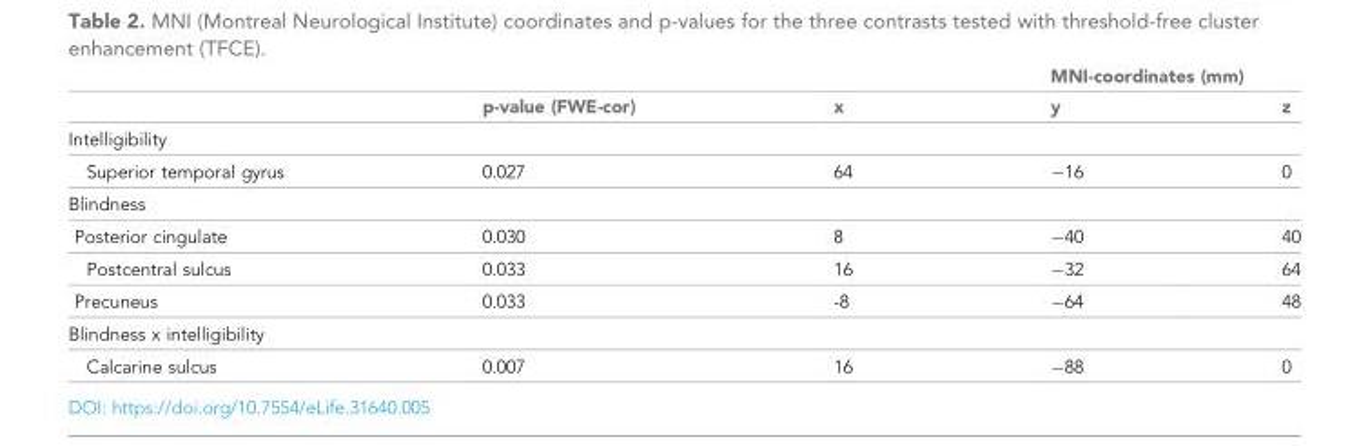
<table><thead><tr><td rowspan="2"></td><td rowspan="2">p-value (FWE-cor)</td><td rowspan="2">x</td><td colspan="2">MNI-coordinates (mm)</td></tr><tr><td>y</td><td>z</td></tr></thead><tbody><tr><td colspan="5">Intelligibility</td></tr><tr><td>Superior temporal gyrus</td><td>0.027</td><td>64</td><td>−16</td><td>0</td></tr><tr><td colspan="5">Blindness</td></tr><tr><td>Posterior cingulate</td><td>0.030</td><td>8</td><td>−40</td><td>40</td></tr><tr><td>Postcentral sulcus</td><td>0.033</td><td>16</td><td>−32</td><td>64</td></tr><tr><td>Precuneus</td><td>0.033</td><td>-8</td><td>−64</td><td>48</td></tr><tr><td colspan="5">Blindness x intelligibility</td></tr><tr><td>Calcarine sulcus</td><td>0.007</td><td>16</td><td>−88</td><td>0</td></tr></tbody></table>